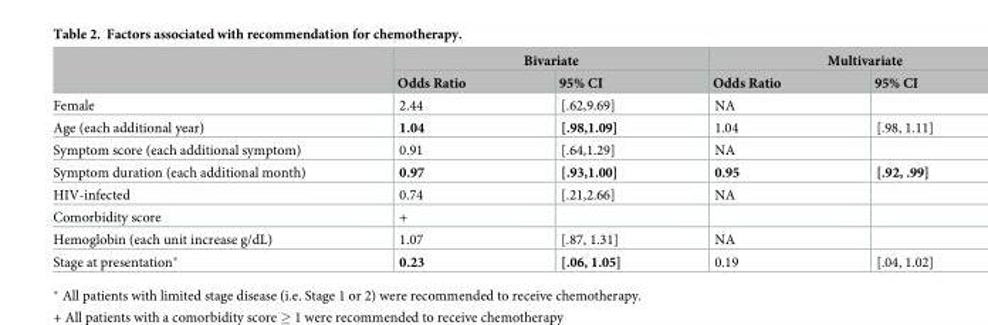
<table><thead><tr><td rowspan="2"></td><td colspan="2">Bivariate</td><td colspan="2">Multivariate</td></tr><tr><td>Odds Ratio</td><td>95% CI</td><td>Odds Ratio</td><td>95% CI</td></tr></thead><tbody><tr><td>Female</td><td>2.44</td><td>[.62,9.69]</td><td>NA</td><td></td></tr><tr><td>Age (each additional year)</td><td>1.04</td><td>[.98,1.09]</td><td>1.04</td><td>[.98, 1.11]</td></tr><tr><td>Symptom score (each additional symptom)</td><td>0.91</td><td>[.64,1.29]</td><td>NA</td><td></td></tr><tr><td>Symptom duration (each additional month)</td><td>0.97</td><td>[.93,1.00]</td><td>0.95</td><td>[.92, .99]</td></tr><tr><td>HIV-infected</td><td>0.74</td><td>[.21,2.66]</td><td>NA</td><td></td></tr><tr><td>Comorbidity score</td><td>+</td><td></td><td></td><td></td></tr><tr><td>Hemoglobin (each unit increase g/dL)</td><td>1.07</td><td>[.87, 1.31]</td><td>NA</td><td></td></tr><tr><td>Stage at presentation*</td><td>0.23</td><td>[.06, 1.05]</td><td>0.19</td><td>[.04, 1.02]</td></tr></tbody></table>